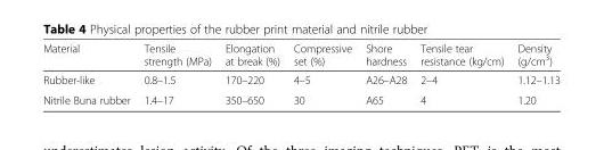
<table><thead><tr><td>Material</td><td>Tensile strength (MPa)</td><td>Elongation at break (%)</td><td>Compressive set (%)</td><td>Shore hardness</td><td>Tensile tear resistance (kg/cm)</td><td>Density (g/cm<sup>3</sup>)</td></tr></thead><tbody><tr><td>Rubber-like</td><td>0.8–1.5</td><td>170–220</td><td>4–5</td><td>A26–A28</td><td>2–4</td><td>1.12–1.13</td></tr><tr><td>Nitrile Buna rubber</td><td>1.4–17</td><td>350–650</td><td>30</td><td>A65</td><td>4</td><td>1.20</td></tr></tbody></table>